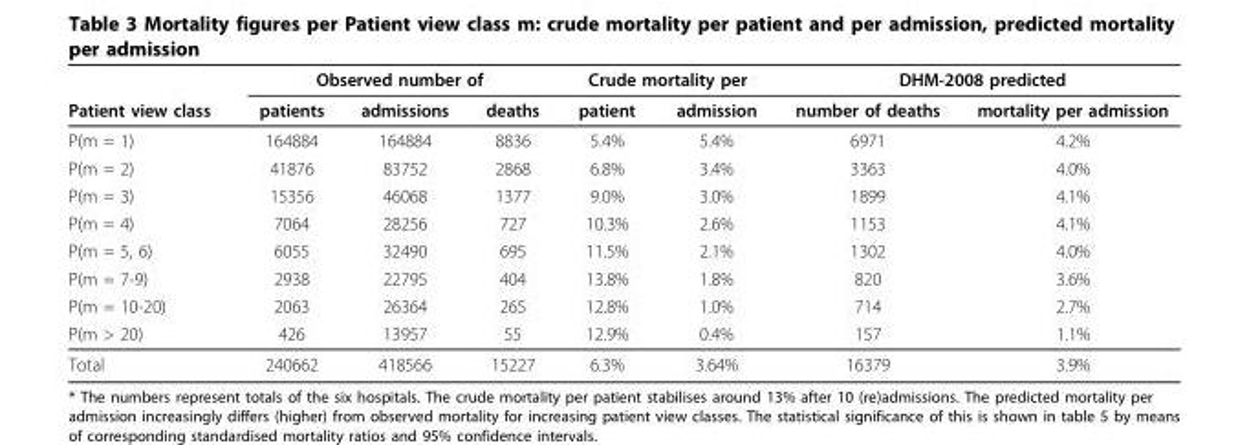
<table><thead><tr><td rowspan="2">Patient view class</td><td colspan="3">Observed number of</td><td colspan="2">Crude mortality per</td><td colspan="2">DHM-2008 predicted</td></tr><tr><td>patients</td><td>admissions</td><td>deaths</td><td>patient</td><td>admission</td><td>number of deaths</td><td>mortality per admission</td></tr></thead><tbody><tr><td>P(m = 1)</td><td>164884</td><td>164884</td><td>8836</td><td>5.4%</td><td>5.4%</td><td>6971</td><td>4.2%</td></tr><tr><td>P(m = 2)</td><td>41876</td><td>83752</td><td>2868</td><td>6.8%</td><td>3.4%</td><td>3363</td><td>4.0%</td></tr><tr><td>P(m = 3)</td><td>15356</td><td>46068</td><td>1377</td><td>9.0%</td><td>3.0%</td><td>1899</td><td>4.1%</td></tr><tr><td>P(m = 4)</td><td>7064</td><td>28256</td><td>727</td><td>10.3%</td><td>2.6%</td><td>1153</td><td>4.1%</td></tr><tr><td>P(m = 5, 6)</td><td>6055</td><td>32490</td><td>695</td><td>11.5%</td><td>2.1%</td><td>1302</td><td>4.0%</td></tr><tr><td>P(m = 7-9)</td><td>2938</td><td>22795</td><td>404</td><td>13.8%</td><td>1.8%</td><td>820</td><td>3.6%</td></tr><tr><td>P(m = 10-20)</td><td>2063</td><td>26364</td><td>265</td><td>12.8%</td><td>1.0%</td><td>714</td><td>2.7%</td></tr><tr><td>P(m &gt; 20)</td><td>426</td><td>13957</td><td>55</td><td>12.9%</td><td>0.4%</td><td>157</td><td>1.1%</td></tr><tr><td>Total</td><td>240662</td><td>418566</td><td>15227</td><td>6.3%</td><td>3.64%</td><td>16379</td><td>3.9%</td></tr></tbody></table>